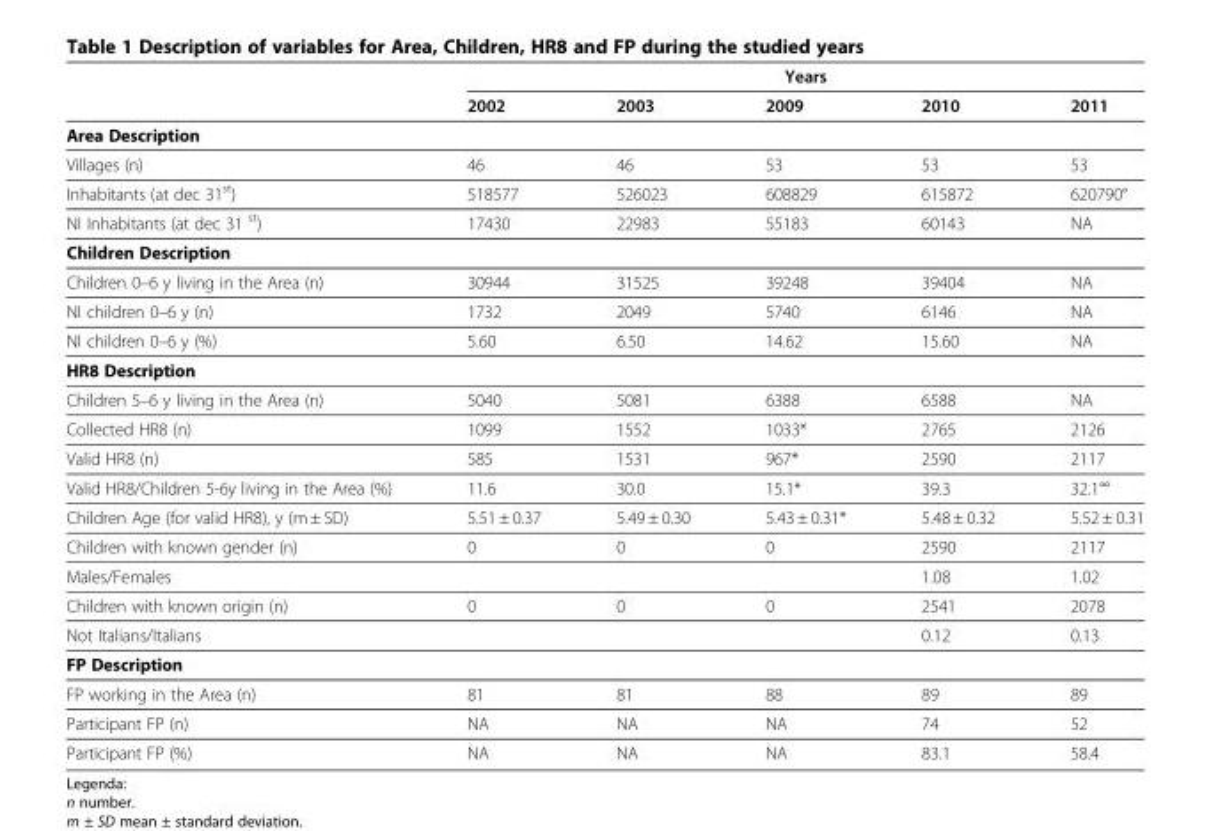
<table><thead><tr><td rowspan="2"></td><td colspan="5">Years</td></tr><tr><td>2002</td><td>2003</td><td>2009</td><td>2010</td><td>2011</td></tr></thead><tbody><tr><td colspan="6">Area Description</td></tr><tr><td>Villages (n)</td><td>46</td><td>46</td><td>53</td><td>53</td><td>53</td></tr><tr><td>Inhabitants (at dec 31<sup>st</sup>)</td><td>518577</td><td>526023</td><td>608829</td><td>615872</td><td>620790°</td></tr><tr><td>NI Inhabitants (at dec 31 <sup>st</sup>)</td><td>17430</td><td>22983</td><td>55183</td><td>60143</td><td>NA</td></tr><tr><td colspan="6">Children Description</td></tr><tr><td>Children 0–6 y living in the Area (n)</td><td>30944</td><td>31525</td><td>39248</td><td>39404</td><td>NA</td></tr><tr><td>NI children 0–6 y (n)</td><td>1732</td><td>2049</td><td>5740</td><td>6146</td><td>NA</td></tr><tr><td>NI children 0–6 y (%)</td><td>5.60</td><td>6.50</td><td>14.62</td><td>15.60</td><td>NA</td></tr><tr><td colspan="6">HR8 Description</td></tr><tr><td>Children 5–6 y living in the Area (n)</td><td>5040</td><td>5081</td><td>6388</td><td>6588</td><td>NA</td></tr><tr><td>Collected HR8 (n)</td><td>1099</td><td>1552</td><td>1033*</td><td>2765</td><td>2126</td></tr><tr><td>Valid HR8 (n)</td><td>585</td><td>1531</td><td>967*</td><td>2590</td><td>2117</td></tr><tr><td>Valid HR8/Children 5-6y living in the Area (%)</td><td>11.6</td><td>30.0</td><td>15.1*</td><td>39.3</td><td>32.1°°</td></tr><tr><td>Children Age (for valid HR8), y (m ± SD)</td><td>5.51 ± 0.37</td><td>5.49 ± 0.30</td><td>5.43 ± 0.31*</td><td>5.48 ± 0.32</td><td>5.52 ± 0.31</td></tr><tr><td>Children with known gender (n)</td><td>0</td><td>0</td><td>0</td><td>2590</td><td>2117</td></tr><tr><td>Males/Females</td><td></td><td></td><td></td><td>1.08</td><td>1.02</td></tr><tr><td>Children with known origin (n)</td><td>0</td><td>0</td><td>0</td><td>2541</td><td>2078</td></tr><tr><td>Not Italians/Italians</td><td></td><td></td><td></td><td>0.12</td><td>0.13</td></tr><tr><td colspan="6">FP Description</td></tr><tr><td>FP working in the Area (n)</td><td>81</td><td>81</td><td>88</td><td>89</td><td>89</td></tr><tr><td>Participant FP (n)</td><td>NA</td><td>NA</td><td>NA</td><td>74</td><td>52</td></tr><tr><td>Participant FP (%)</td><td>NA</td><td>NA</td><td>NA</td><td>83.1</td><td>58.4</td></tr></tbody></table>